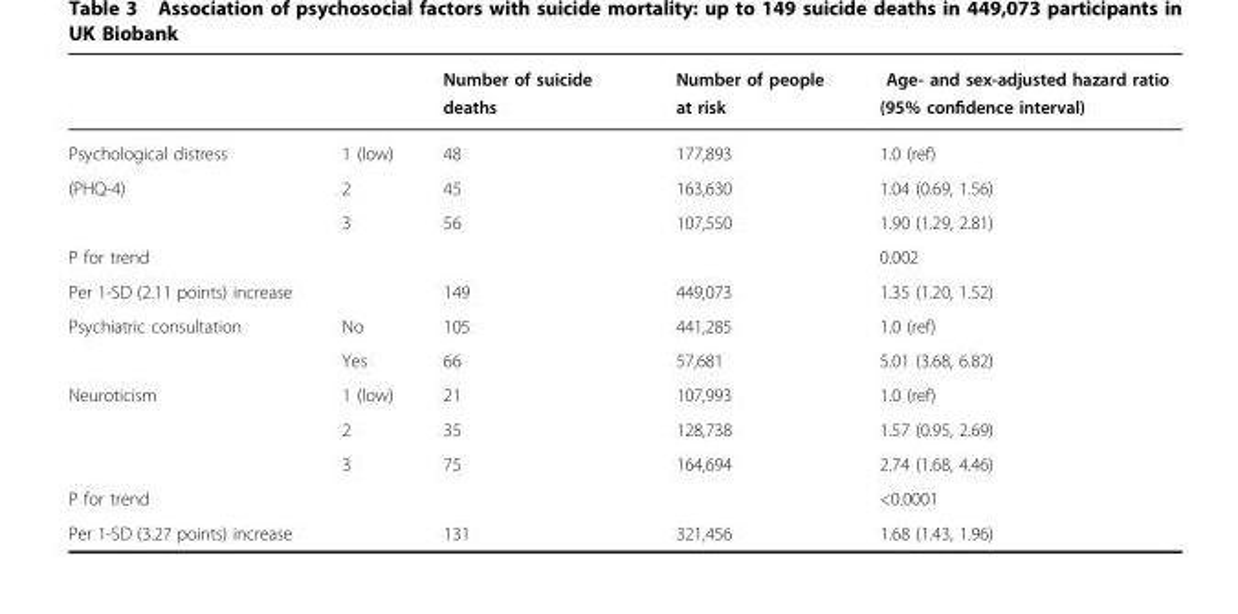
<table><thead><tr><td></td><td></td><td>Number of suicide deaths</td><td>Number of people at risk</td><td>Age- and sex-adjusted hazard ratio (95% confidence interval)</td></tr></thead><tbody><tr><td>Psychological distress</td><td>1 (low)</td><td>48</td><td>177,893</td><td>1.0 (ref)</td></tr><tr><td rowspan="2">(PHQ-4)</td><td>2</td><td>45</td><td>163,630</td><td>1.04 (0.69, 1.56)</td></tr><tr><td>3</td><td>56</td><td>107,550</td><td>1.90 (1.29, 2.81)</td></tr><tr><td>P for trend</td><td></td><td></td><td></td><td>0.002</td></tr><tr><td>Per 1-SD (2.11 points) increase</td><td></td><td>149</td><td>449,073</td><td>1.35 (1.20, 1.52)</td></tr><tr><td rowspan="2">Psychiatric consultation</td><td>No</td><td>105</td><td>441,285</td><td>1.0 (ref)</td></tr><tr><td>Yes</td><td>66</td><td>57,681</td><td>5.01 (3.68, 6.82)</td></tr><tr><td rowspan="3">Neuroticism</td><td>1 (low)</td><td>21</td><td>107,993</td><td>1.0 (ref)</td></tr><tr><td>2</td><td>35</td><td>128,738</td><td>1.57 (0.95, 2.69)</td></tr><tr><td>3</td><td>75</td><td>164,694</td><td>2.74 (1.68, 4.46)</td></tr><tr><td>P for trend</td><td></td><td></td><td></td><td>&lt;0.0001</td></tr><tr><td>Per 1-SD (3.27 points) increase</td><td></td><td>131</td><td>321,456</td><td>1.68 (1.43, 1.96)</td></tr></tbody></table>